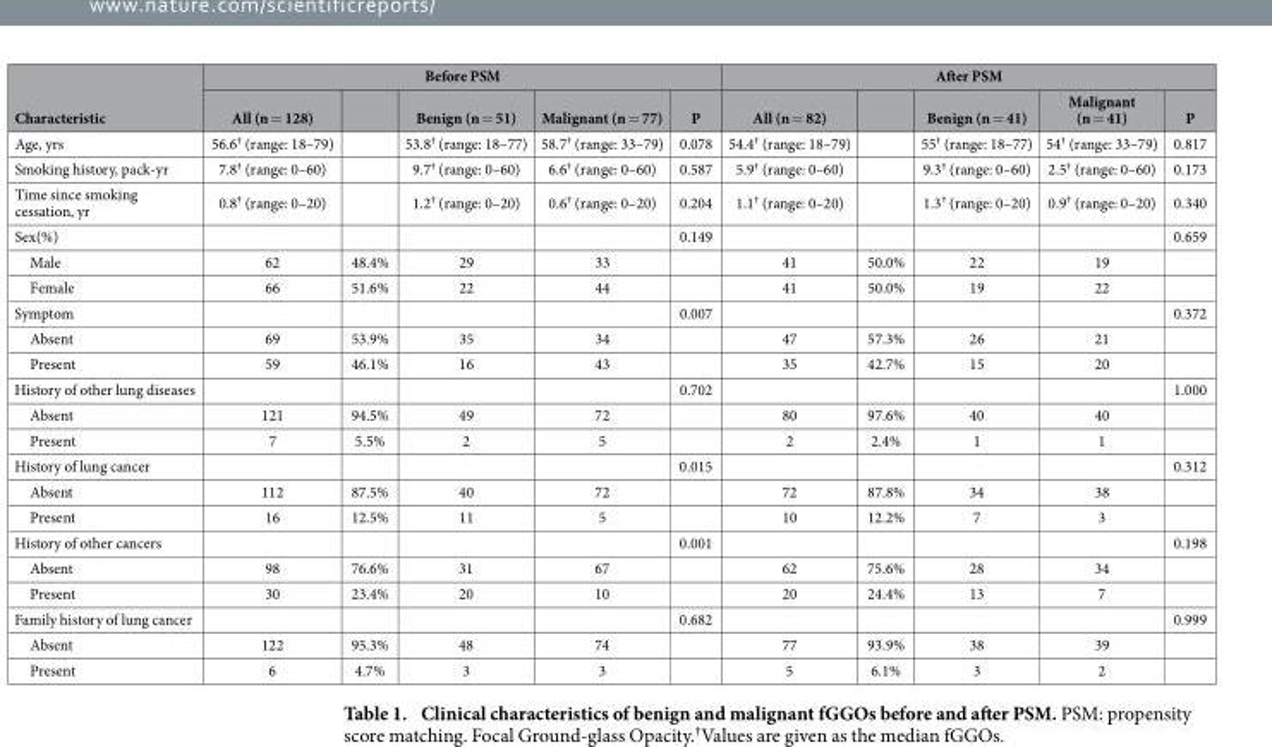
<table><thead><tr><td rowspan="2">Characteristic</td><td colspan="5">Before PSM</td><td colspan="5">After PSM</td></tr><tr><td>All (n = 128)</td><td></td><td>Benign (n = 51)</td><td>Malignant (n = 77)</td><td>P</td><td>All (n = 82)</td><td></td><td>Benign (n = 41)</td><td>Malignant (n = 41)</td><td>P</td></tr></thead><tbody><tr><td>Age, yrs</td><td>56.6† (range: 18–79)</td><td></td><td>53.8† (range: 18–77)</td><td>58.7† (range: 33–79)</td><td>0.078</td><td>54.4† (range: 18–79)</td><td></td><td>55† (range: 18–77)</td><td>54† (range: 33–79)</td><td>0.817</td></tr><tr><td>Smoking history, pack-yr</td><td>7.8<sup>†</sup> (range: 0–60)</td><td></td><td>9.7† (range: 0–60)</td><td>6.6† (range: 0–60)</td><td>0.587</td><td>5.9† (range: 0–60)</td><td></td><td>9.3† (range: 0–60)</td><td>2.5† (range: 0–60)</td><td>0.173</td></tr><tr><td>Time since smoking cessation, yr</td><td>0.8<sup>†</sup> (range: 0–20)</td><td></td><td>1.2† (range: 0–20)</td><td>0.6† (range: 0–20)</td><td>0.204</td><td>1.1† (range: 0–20)</td><td></td><td>1.3† (range: 0–20)</td><td>0.9† (range: 0–20)</td><td>0.340</td></tr><tr><td>Sex(%)</td><td></td><td></td><td></td><td></td><td>0.149</td><td></td><td></td><td></td><td></td><td>0.659</td></tr><tr><td>Male</td><td>62</td><td>48.4%</td><td>29</td><td>33</td><td></td><td>41</td><td>50.0%</td><td>22</td><td>19</td><td></td></tr><tr><td>Female</td><td>66</td><td>51.6%</td><td>22</td><td>44</td><td></td><td>41</td><td>50.0%</td><td>19</td><td>22</td><td></td></tr><tr><td>Symptom</td><td></td><td></td><td></td><td></td><td>0.007</td><td></td><td></td><td></td><td></td><td>0.372</td></tr><tr><td>Absent</td><td>69</td><td>53.9%</td><td>35</td><td>34</td><td></td><td>47</td><td>57.3%</td><td>26</td><td>21</td><td></td></tr><tr><td>Present</td><td>59</td><td>46.1%</td><td>16</td><td>43</td><td></td><td>35</td><td>42.7%</td><td>15</td><td>20</td><td></td></tr><tr><td>History of other lung diseases</td><td></td><td></td><td></td><td></td><td>0.702</td><td></td><td></td><td></td><td></td><td>1.000</td></tr><tr><td>Absent</td><td>121</td><td>94.5%</td><td>49</td><td>72</td><td></td><td>80</td><td>97.6%</td><td>40</td><td>40</td><td></td></tr><tr><td>Present</td><td>7</td><td>5.5%</td><td>2</td><td>5</td><td></td><td>2</td><td>2.4%</td><td>1</td><td>1</td><td></td></tr><tr><td>History of lung cancer</td><td></td><td></td><td></td><td></td><td>0.015</td><td></td><td></td><td></td><td></td><td>0.312</td></tr><tr><td>Absent</td><td>112</td><td>87.5%</td><td>40</td><td>72</td><td></td><td>72</td><td>87.8%</td><td>34</td><td>38</td><td></td></tr><tr><td>Present</td><td>16</td><td>12.5%</td><td>11</td><td>5</td><td></td><td>10</td><td>12.2%</td><td>7</td><td>3</td><td></td></tr><tr><td>History of other cancers</td><td></td><td></td><td></td><td></td><td>0.001</td><td></td><td></td><td></td><td></td><td>0.198</td></tr><tr><td>Absent</td><td>98</td><td>76.6%</td><td>31</td><td>67</td><td></td><td>62</td><td>75.6%</td><td>28</td><td>34</td><td></td></tr><tr><td>Present</td><td>30</td><td>23.4%</td><td>20</td><td>10</td><td></td><td>20</td><td>24.4%</td><td>13</td><td>7</td><td></td></tr><tr><td>Family history of lung cancer</td><td></td><td></td><td></td><td></td><td>0.682</td><td></td><td></td><td></td><td></td><td>0.999</td></tr><tr><td>Absent</td><td>122</td><td>95.3%</td><td>48</td><td>74</td><td></td><td>77</td><td>93.9%</td><td>38</td><td>39</td><td></td></tr><tr><td>Present</td><td>6</td><td>4.7%</td><td>3</td><td>3</td><td></td><td>5</td><td>6.1%</td><td>3</td><td>2</td><td></td></tr></tbody></table>